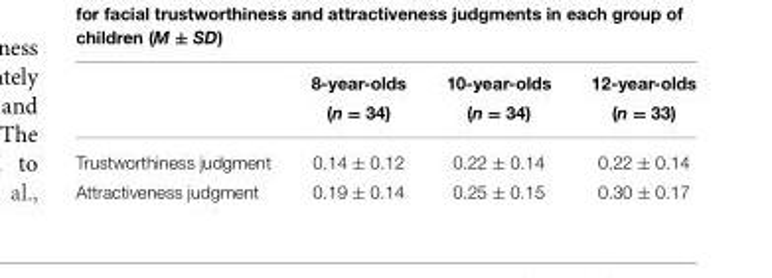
<table><thead><tr><td></td><td>8-year-olds (n = 34)</td><td>10-year-olds (n = 34)</td><td>12-year-olds (n = 33)</td></tr></thead><tbody><tr><td>Trustworthiness judgment</td><td>0.14 ± 0.12</td><td>0.22 ± 0.14</td><td>0.22 ± 0.14</td></tr><tr><td>Attractiveness judgment</td><td>0.19 ± 0.14</td><td>0.25 ± 0.15</td><td>0.30 ± 0.17</td></tr></tbody></table>